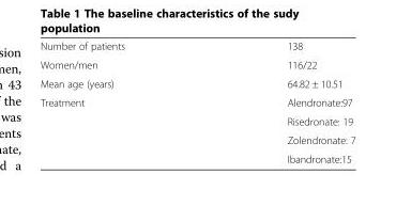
<table><tbody><tr><td>Number of patients</td><td>138</td></tr><tr><td>Women/men</td><td>116/22</td></tr><tr><td>Mean age (years)</td><td>64.82 ± 10.51</td></tr><tr><td rowspan="4">Treatment</td><td>Alendronate:97</td></tr><tr><td>Risedronate: 19</td></tr><tr><td>Zolendronate: 7</td></tr><tr><td>Ibandronate:15</td></tr></tbody></table>